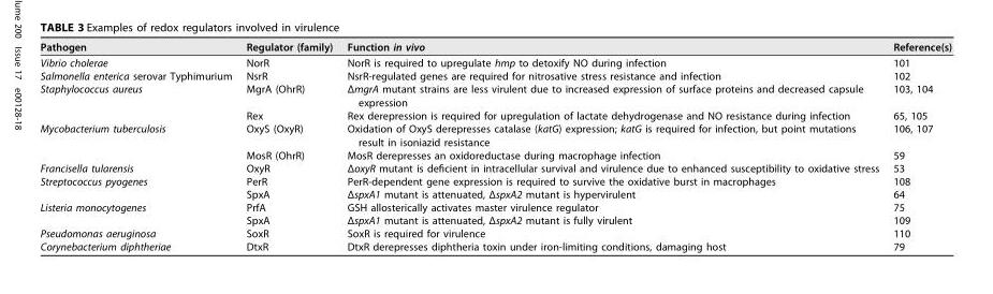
<table><thead><tr><td>Pathogen</td><td>Regulator (family)</td><td>Function in vivo</td><td>Reference(s)</td></tr></thead><tbody><tr><td>Vibrio cholerae</td><td>NorR</td><td>NorR is required to upregulate hmp to detoxify NO during infection</td><td>101</td></tr><tr><td>Salmonella enterica serovar Typhimurium</td><td>NsrR</td><td>NsrR-regulated genes are required for nitrosative stress resistance and infection</td><td>102</td></tr><tr><td rowspan="2">Staphylococcus aureus</td><td>MgrA (OhrR)</td><td>ΔmgrA mutant strains are less virulent due to increased expression of surface proteins and decreased capsule expression</td><td>103, 104</td></tr><tr><td>Rex</td><td>Rex derepression is required for upregulation of lactate dehydrogenase and NO resistance during infection</td><td>65, 105</td></tr><tr><td rowspan="2">Mycobacterium tuberculosis</td><td>OxyS (OxyR)</td><td>Oxidation of OxyS derepresses catalase (katG) expression; katG is required for infection, but point mutations result in isoniazid resistance</td><td>106, 107</td></tr><tr><td>MosR (OhrR)</td><td>MosR derepresses an oxidoreductase during macrophage infection</td><td>59</td></tr><tr><td>Francisella tularensis</td><td>OxyR</td><td>ΔoxyR mutant is deficient in intracellular survival and virulence due to enhanced susceptibility to oxidative stress</td><td>53</td></tr><tr><td rowspan="2">Streptococcus pyogenes</td><td>PerR</td><td>PerR-dependent gene expression is required to survive the oxidative burst in macrophages</td><td>108</td></tr><tr><td>SpxA</td><td>ΔspxA1 mutant is attenuated, ΔspxA2 mutant is hypervirulent</td><td>64</td></tr><tr><td rowspan="2">Listeria monocytogenes</td><td>PrfA</td><td>GSH allosterically activates master virulence regulator</td><td>75</td></tr><tr><td>SpxA</td><td>ΔspxA1 mutant is attenuated, ΔspxA2 mutant is fully virulent</td><td>109</td></tr><tr><td>Pseudomonas aeruginosa</td><td>SoxR</td><td>SoxR is required for virulence</td><td>110</td></tr><tr><td>Corynebacterium diphtheriae</td><td>DtxR</td><td>DtxR derepresses diphtheria toxin under iron-limiting conditions, damaging host</td><td>79</td></tr></tbody></table>